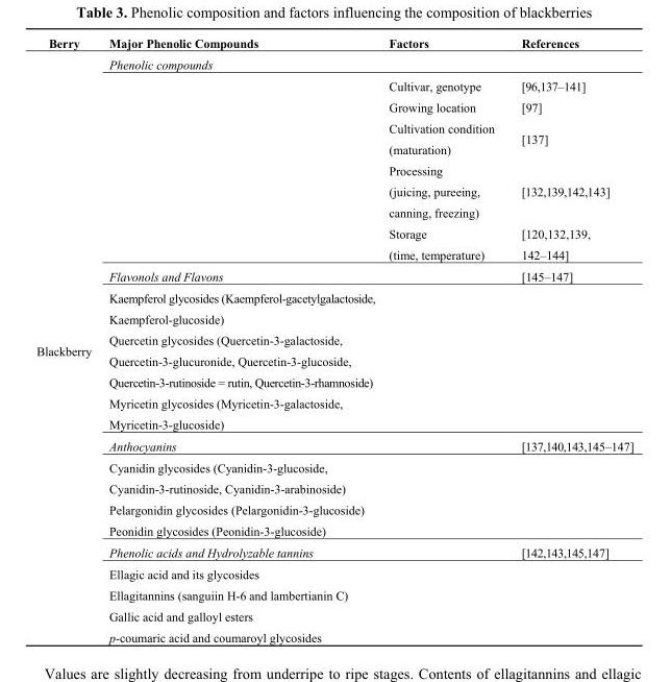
<table><thead><tr><td>Berry</td><td>Major Phenolic Compounds</td><td>Factors</td><td>References</td></tr></thead><tbody><tr><td rowspan="19">Blackberry</td><td>Phenolic compounds</td><td></td><td></td></tr><tr><td></td><td>Cultivar, genotype</td><td>[96,137–141]</td></tr><tr><td></td><td>Growing location</td><td>[97]</td></tr><tr><td></td><td>Cultivation condition (maturation)</td><td>[137]</td></tr><tr><td></td><td>Processing (juicing, pureeing, canning, freezing)</td><td>[132,139,142,143]</td></tr><tr><td></td><td>Storage (time, temperature)</td><td>[120,132,139, 142–144]</td></tr><tr><td>Flavonols and Flavons</td><td></td><td>[145–147]</td></tr><tr><td>Kaempferol glycosides (Kaempferol-gacetylgalactoside, Kaempferol-glucoside)</td><td></td><td></td></tr><tr><td>Quercetin glycosides (Quercetin-3-galactoside, Quercetin-3-glucuronide, Quercetin-3-glucoside, Quercetin-3-rutinoside = rutin, Quercetin-3-rhamnoside)</td><td></td><td></td></tr><tr><td>Myricetin glycosides (Myricetin-3-galactoside, Myricetin-3-glucoside)</td><td></td><td></td></tr><tr><td>Anthocyanins</td><td></td><td>[137,140,143,145–147]</td></tr><tr><td>Cyanidin glycosides (Cyanidin-3-glucoside, Cyanidin-3-rutinoside, Cyanidin-3-arabinoside)</td><td></td><td></td></tr><tr><td>Pelargonidin glycosides (Pelargonidin-3-glucoside)</td><td></td><td></td></tr><tr><td>Peonidin glycosides (Peonidin-3-glucoside)</td><td></td><td></td></tr><tr><td>Phenolic acids and Hydrolyzable tannins</td><td></td><td>[142,143,145,147]</td></tr><tr><td>Ellagic acid and its glycosides</td><td></td><td></td></tr><tr><td>Ellagitannins (sanguiin H-6 and lambertianin C)</td><td></td><td></td></tr><tr><td>Gallic acid and galloyl esters</td><td></td><td></td></tr><tr><td>p-coumaric acid and coumaroyl glycosides</td><td></td><td></td></tr></tbody></table>